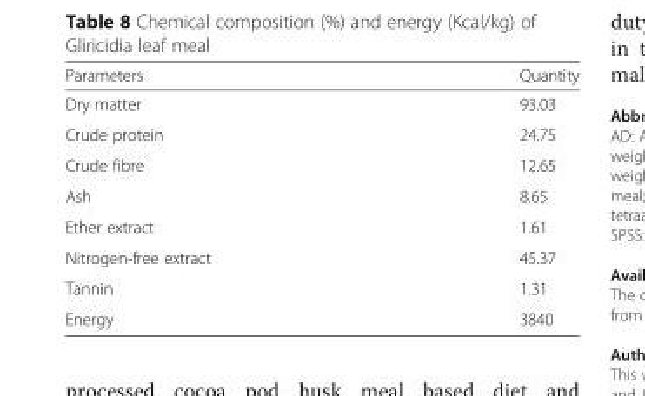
<table><thead><tr><td>Parameters</td><td>Quantity</td></tr></thead><tbody><tr><td>Dry matter</td><td>93.03</td></tr><tr><td>Crude protein</td><td>24.75</td></tr><tr><td>Crude fibre</td><td>12.65</td></tr><tr><td>Ash</td><td>8.65</td></tr><tr><td>Ether extract</td><td>1.61</td></tr><tr><td>Nitrogen-free extract</td><td>45.37</td></tr><tr><td>Tannin</td><td>1.31</td></tr><tr><td>Energy</td><td>3840</td></tr></tbody></table>